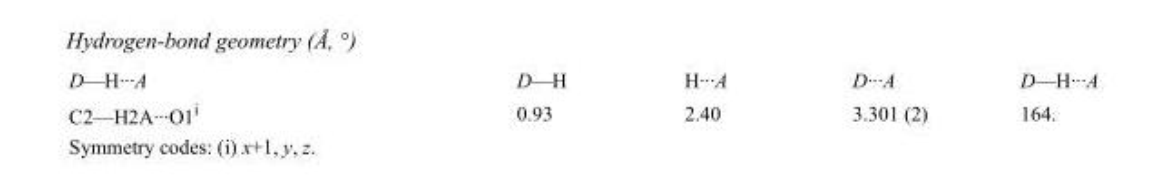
<table><tbody><tr><td>D—H···A</td><td>D—H</td><td>H···A</td><td>D···A</td><td>D—H···A</td></tr><tr><td>C2—H2A···O1<sup>i</sup></td><td>0.93</td><td>2.40</td><td>3.301 (2)</td><td>164.</td></tr></tbody></table>